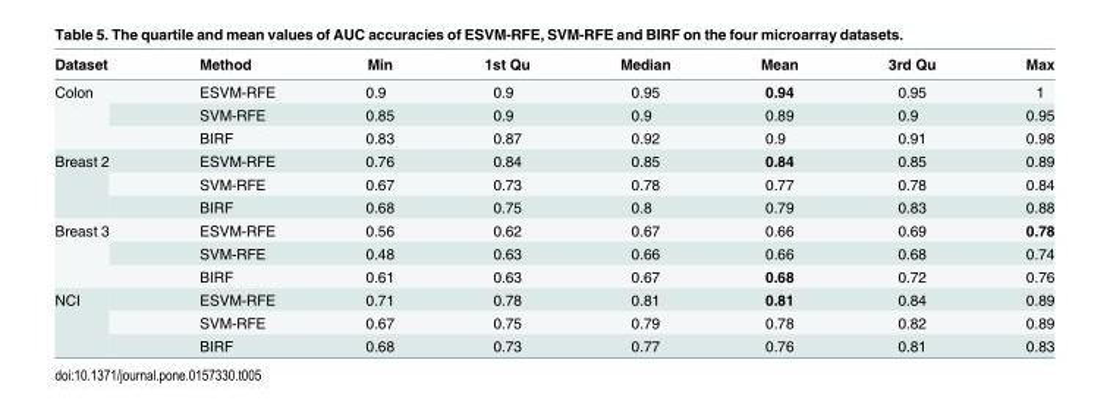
<table><thead><tr><td>Dataset</td><td>Method</td><td>Min</td><td>1st Qu</td><td>Median</td><td>Mean</td><td>3rd Qu</td><td>Max</td></tr></thead><tbody><tr><td rowspan="3">Colon</td><td>ESVM-RFE</td><td>0.9</td><td>0.9</td><td>0.95</td><td>0.94</td><td>0.95</td><td>1</td></tr><tr><td>SVM-RFE</td><td>0.85</td><td>0.9</td><td>0.9</td><td>0.89</td><td>0.9</td><td>0.95</td></tr><tr><td>BIRF</td><td>0.83</td><td>0.87</td><td>0.92</td><td>0.9</td><td>0.91</td><td>0.98</td></tr><tr><td rowspan="3">Breast 2</td><td>ESVM-RFE</td><td>0.76</td><td>0.84</td><td>0.85</td><td>0.84</td><td>0.85</td><td>0.89</td></tr><tr><td>SVM-RFE</td><td>0.67</td><td>0.73</td><td>0.78</td><td>0.77</td><td>0.78</td><td>0.84</td></tr><tr><td>BIRF</td><td>0.68</td><td>0.75</td><td>0.8</td><td>0.79</td><td>0.83</td><td>0.88</td></tr><tr><td rowspan="3">Breast 3</td><td>ESVM-RFE</td><td>0.56</td><td>0.62</td><td>0.67</td><td>0.66</td><td>0.69</td><td>0.78</td></tr><tr><td>SVM-RFE</td><td>0.48</td><td>0.63</td><td>0.66</td><td>0.66</td><td>0.68</td><td>0.74</td></tr><tr><td>BIRF</td><td>0.61</td><td>0.63</td><td>0.67</td><td>0.68</td><td>0.72</td><td>0.76</td></tr><tr><td rowspan="3">NCI</td><td>ESVM-RFE</td><td>0.71</td><td>0.78</td><td>0.81</td><td>0.81</td><td>0.84</td><td>0.89</td></tr><tr><td>SVM-RFE</td><td>0.67</td><td>0.75</td><td>0.79</td><td>0.78</td><td>0.82</td><td>0.89</td></tr><tr><td>BIRF</td><td>0.68</td><td>0.73</td><td>0.77</td><td>0.76</td><td>0.81</td><td>0.83</td></tr></tbody></table>